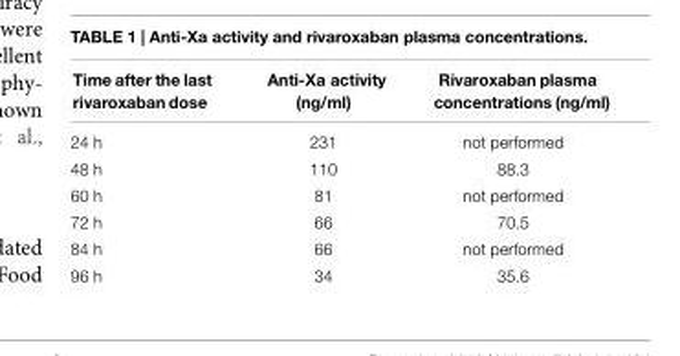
<table><thead><tr><td>Time after the last rivaroxaban dose</td><td>Anti-Xa activity (ng/ml)</td><td>Rivaroxaban plasma concentrations (ng/ml)</td></tr></thead><tbody><tr><td>24 h</td><td>231</td><td>not performed</td></tr><tr><td>48 h</td><td>110</td><td>88.3</td></tr><tr><td>60 h</td><td>81</td><td>not performed</td></tr><tr><td>72 h</td><td>66</td><td>70.5</td></tr><tr><td>84 h</td><td>66</td><td>not performed</td></tr><tr><td>96 h</td><td>34</td><td>35.6</td></tr></tbody></table>